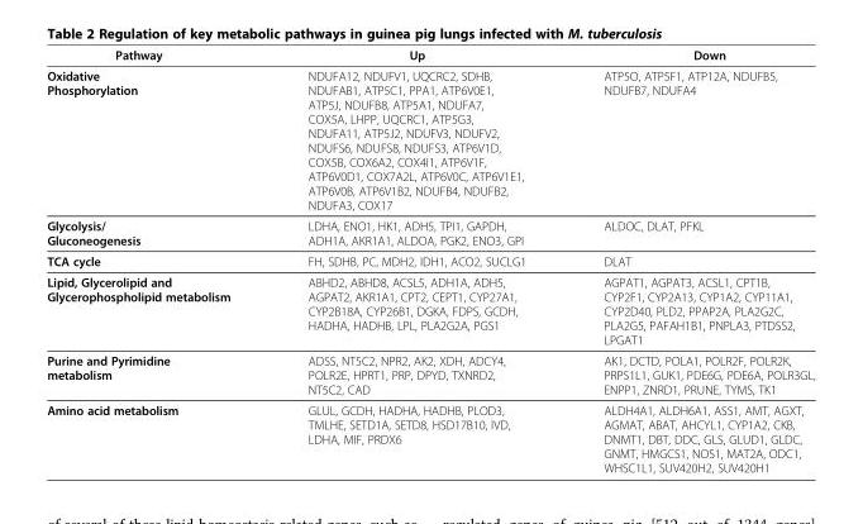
<table><thead><tr><td>Pathway</td><td>Up</td><td>Down</td></tr></thead><tbody><tr><td>Oxidative Phosphorylation</td><td>NDUFA12, NDUFV1, UQCRC2, SDHB, NDUFAB1, ATP5C1, PPA1, ATP6V0E1, ATP5J, NDUFB8, ATP5A1, NDUFA7, COX5A, LHPP, UQCRC1, ATP5G3, NDUFA11, ATP5J2, NDUFV3, NDUFV2, NDUFS6, NDUFS8, NDUFS3, ATP6V1D, COX5B, COX6A2, COX4I1, ATP6V1F, ATP6V0D1, COX7A2L, ATP6V0C, ATP6V1E1, ATP6V0B, ATP6V1B2, NDUFB4, NDUFB2, NDUFA3, COX17</td><td>ATP5O, ATP5F1, ATP12A, NDUFB5, NDUFB7, NDUFA4</td></tr><tr><td>Glycolysis/ Gluconeogenesis</td><td>LDHA, ENO1, HK1, ADH5, TPI1, GAPDH, ADH1A, AKR1A1, ALDOA, PGK2, ENO3, GPI</td><td>ALDOC, DLAT, PFKL</td></tr><tr><td>TCA cycle</td><td>FH, SDHB, PC, MDH2, IDH1, ACO2, SUCLG1</td><td>DLAT</td></tr><tr><td>Lipid, Glycerolipid and Glycerophospholipid metabolism</td><td>ABHD2, ABHD8, ACSL5, ADH1A, ADH5, AGPAT2, AKR1A1, CPT2, CEPT1, CYP27A1, CYP2B18A, CYP26B1, DGKA, FDPS, GCDH, HADHA, HADHB, LPL, PLA2G2A, PGS1</td><td>AGPAT1, AGPAT3, ACSL1, CPT1B, CYP2F1, CYP2A13, CYP1A2, CYP11A1, CYP2D40, PLD2, PPAP2A, PLA2G2C, PLA2G5, PAFAH1B1, PNPLA3, PTDSS2, LPGAT1</td></tr><tr><td>Purine and Pyrimidine metabolism</td><td>ADSS, NT5C2, NPR2, AK2, XDH, ADCY4, POLR2E, HPRT1, PRP, DPYD, TXNRD2, NT5C2, CAD</td><td>AK1, DCTD, POLA1, POLR2F, POLR2K, PRPS1L1, GUK1, PDE6G, PDE6A, POLR3GL, ENPP1, ZNRD1, PRUNE, TYMS, TK1</td></tr><tr><td>Amino acid metabolism</td><td>GLUL, GCDH, HADHA, HADHB, PLOD3, TMLHE, SETD1A, SETD8, HSD17B10, IVD, LDHA, MIF, PRDX6</td><td>ALDH4A1, ALDH6A1, ASS1, AMT, AGXT, AGMAT, ABAT, AHCYL1, CYP1A2, CKB, DNMT1, DBT, DDC, GLS, GLUD1, GLDC, GNMT, HMGCS1, NOS1, MAT2A, ODC1, WHSC1L1, SUV420H2, SUV420H1</td></tr></tbody></table>